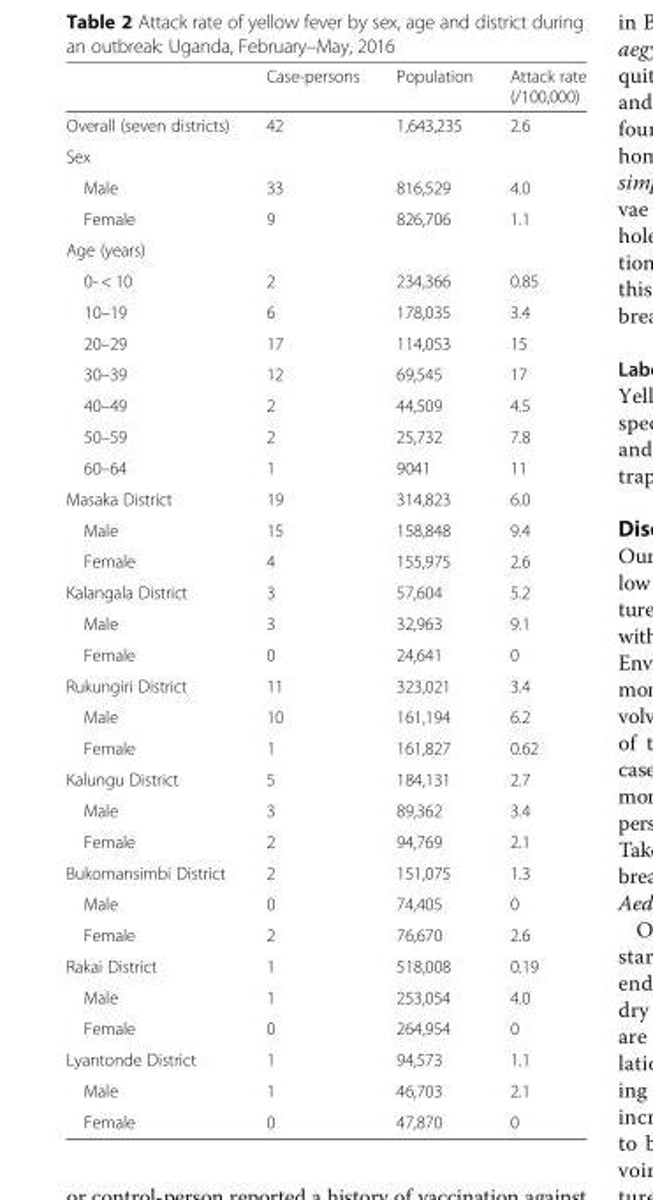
<table><thead><tr><td></td><td>Case-persons</td><td>Population</td><td>Attack rate (/100,000)</td></tr></thead><tbody><tr><td>Overall (seven districts)</td><td>42</td><td>1,643,235</td><td>2.6</td></tr><tr><td colspan="4">Sex</td></tr><tr><td>Male</td><td>33</td><td>816,529</td><td>4.0</td></tr><tr><td>Female</td><td>9</td><td>826,706</td><td>1.1</td></tr><tr><td colspan="4">Age (years)</td></tr><tr><td>0- &lt; 10</td><td>2</td><td>234,366</td><td>0.85</td></tr><tr><td>10–19</td><td>6</td><td>178,035</td><td>3.4</td></tr><tr><td>20–29</td><td>17</td><td>114,053</td><td>15</td></tr><tr><td>30–39</td><td>12</td><td>69,545</td><td>17</td></tr><tr><td>40–49</td><td>2</td><td>44,509</td><td>4.5</td></tr><tr><td>50–59</td><td>2</td><td>25,732</td><td>7.8</td></tr><tr><td>60–64</td><td>1</td><td>9041</td><td>11</td></tr><tr><td>Masaka District</td><td>19</td><td>314,823</td><td>6.0</td></tr><tr><td>Male</td><td>15</td><td>158,848</td><td>9.4</td></tr><tr><td>Female</td><td>4</td><td>155,975</td><td>2.6</td></tr><tr><td>Kalangala District</td><td>3</td><td>57,604</td><td>5.2</td></tr><tr><td>Male</td><td>3</td><td>32,963</td><td>9.1</td></tr><tr><td>Female</td><td>0</td><td>24,641</td><td>0</td></tr><tr><td>Rukungiri District</td><td>11</td><td>323,021</td><td>3.4</td></tr><tr><td>Male</td><td>10</td><td>161,194</td><td>6.2</td></tr><tr><td>Female</td><td>1</td><td>161,827</td><td>0.62</td></tr><tr><td>Kalungu District</td><td>5</td><td>184,131</td><td>2.7</td></tr><tr><td>Male</td><td>3</td><td>89,362</td><td>3.4</td></tr><tr><td>Female</td><td>2</td><td>94,769</td><td>2.1</td></tr><tr><td>Bukomansimbi District</td><td>2</td><td>151,075</td><td>1.3</td></tr><tr><td>Male</td><td>0</td><td>74,405</td><td>0</td></tr><tr><td>Female</td><td>2</td><td>76,670</td><td>2.6</td></tr><tr><td>Rakai District</td><td>1</td><td>518,008</td><td>0.19</td></tr><tr><td>Male</td><td>1</td><td>253,054</td><td>4.0</td></tr><tr><td>Female</td><td>0</td><td>264,954</td><td>0</td></tr><tr><td>Lyantonde District</td><td>1</td><td>94,573</td><td>1.1</td></tr><tr><td>Male</td><td>1</td><td>46,703</td><td>2.1</td></tr><tr><td>Female</td><td>0</td><td>47,870</td><td>0</td></tr></tbody></table>